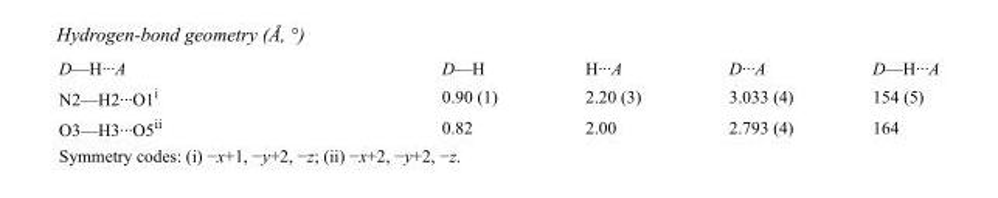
<table><tbody><tr><td>D—H···A</td><td>D—H</td><td>H···A</td><td>D···A</td><td>D—H···A</td></tr><tr><td>N2—H2···O1<sup>i</sup></td><td>0.90 (1)</td><td>2.20 (3)</td><td>3.033 (4)</td><td>154 (5)</td></tr><tr><td>O3—H3···O5<sup>ii</sup></td><td>0.82</td><td>2.00</td><td>2.793 (4)</td><td>164</td></tr></tbody></table>